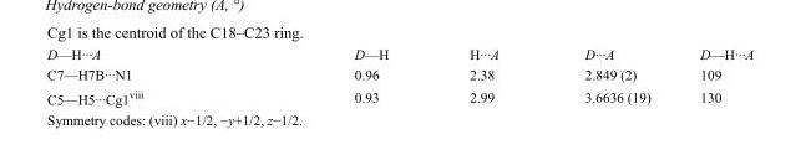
<table><tbody><tr><td>D—H···A</td><td>D—H</td><td>H···A</td><td>D···A</td><td>D—H···A</td></tr><tr><td>C7—H7B···N1</td><td>0.96</td><td>2.38</td><td>2.849 (2)</td><td>109</td></tr><tr><td>C5—H5···Cg1<sup>viii</sup></td><td>0.93</td><td>2.99</td><td>3.6636 (19)</td><td>130</td></tr></tbody></table>